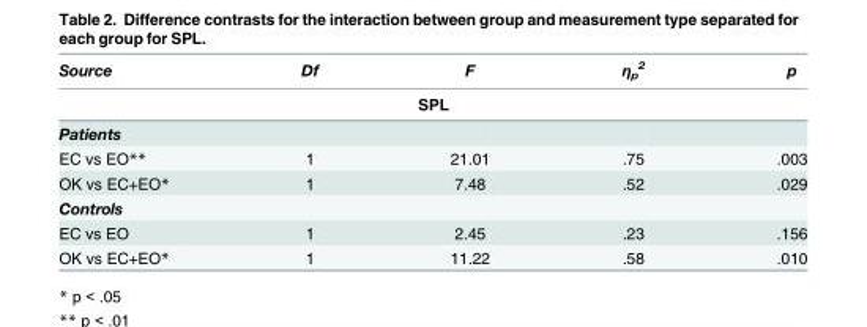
<table><thead><tr><td>Source</td><td>Df</td><td>F</td><td>η<sub>p</sub> <sup>2</sup></td><td>p</td></tr><tr><td colspan="5">SPL</td></tr></thead><tbody><tr><td colspan="5">Patients</td></tr><tr><td>EC vs EO**</td><td>1</td><td>21.01</td><td>.75</td><td>.003</td></tr><tr><td>OK vs EC+EO*</td><td>1</td><td>7.48</td><td>.52</td><td>.029</td></tr><tr><td colspan="5">Controls</td></tr><tr><td>EC vs EO</td><td>1</td><td>2.45</td><td>.23</td><td>.156</td></tr><tr><td>OK vs EC+EO*</td><td>1</td><td>11.22</td><td>.58</td><td>.010</td></tr></tbody></table>